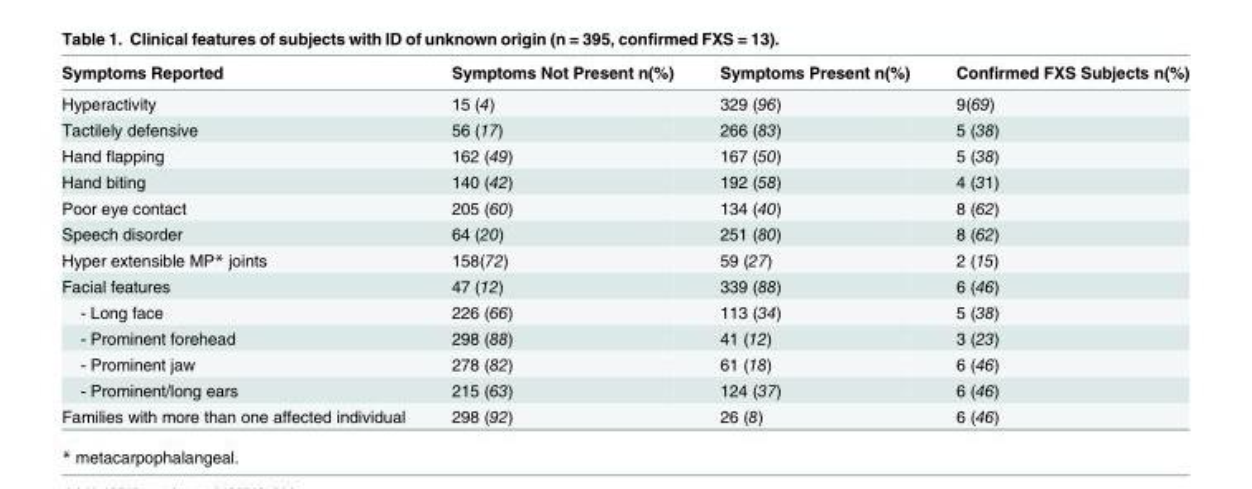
<table><thead><tr><td>Symptoms Reported</td><td>Symptoms Not Present n(%)</td><td>Symptoms Present n(%)</td><td>Confirmed FXS Subjects n(%)</td></tr></thead><tbody><tr><td>Hyperactivity</td><td>15 (4)</td><td>329 (96)</td><td>9(69)</td></tr><tr><td>Tactilely defensive</td><td>56 (17)</td><td>266 (83)</td><td>5 (38)</td></tr><tr><td>Hand flapping</td><td>162 (49)</td><td>167 (50)</td><td>5 (38)</td></tr><tr><td>Hand biting</td><td>140 (42)</td><td>192 (58)</td><td>4 (31)</td></tr><tr><td>Poor eye contact</td><td>205 (60)</td><td>134 (40)</td><td>8 (62)</td></tr><tr><td>Speech disorder</td><td>64 (20)</td><td>251 (80)</td><td>8 (62)</td></tr><tr><td>Hyper extensible MP* joints</td><td>158(72)</td><td>59 (27)</td><td>2 (15)</td></tr><tr><td>Facial features</td><td>47 (12)</td><td>339 (88)</td><td>6 (46)</td></tr><tr><td>- Long face</td><td>226 (66)</td><td>113 (34)</td><td>5 (38)</td></tr><tr><td>- Prominent forehead</td><td>298 (88)</td><td>41 (12)</td><td>3 (23)</td></tr><tr><td>- Prominent jaw</td><td>278 (82)</td><td>61 (18)</td><td>6 (46)</td></tr><tr><td>- Prominent/long ears</td><td>215 (63)</td><td>124 (37)</td><td>6 (46)</td></tr><tr><td>Families with more than one affected individual</td><td>298 (92)</td><td>26 (8)</td><td>6 (46)</td></tr></tbody></table>